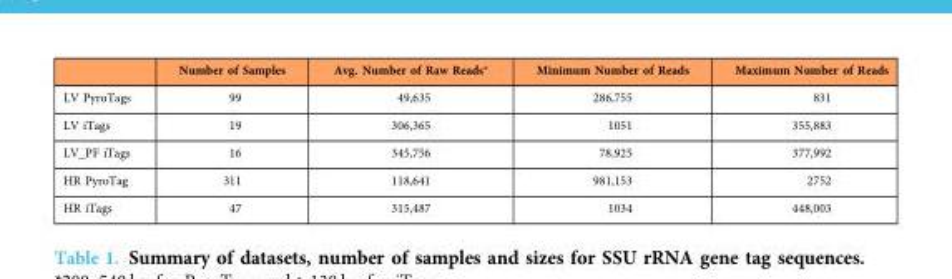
<table><thead><tr><td></td><td>Number of Samples</td><td>Avg. Number of Raw Reads*</td><td>Minimum Number of Reads</td><td>Maximum Number of Reads</td></tr></thead><tbody><tr><td>LV PyroTags</td><td>99</td><td>49,635</td><td>286,755</td><td>831</td></tr><tr><td>LV iTags</td><td>19</td><td>306,365</td><td>1051</td><td>355,883</td></tr><tr><td>LV_PF iTags</td><td>16</td><td>345,756</td><td>78,925</td><td>377,992</td></tr><tr><td>HR PyroTag</td><td>311</td><td>118,641</td><td>981,153</td><td>2752</td></tr><tr><td>HR iTags</td><td>47</td><td>315,487</td><td>1034</td><td>448,003</td></tr></tbody></table>